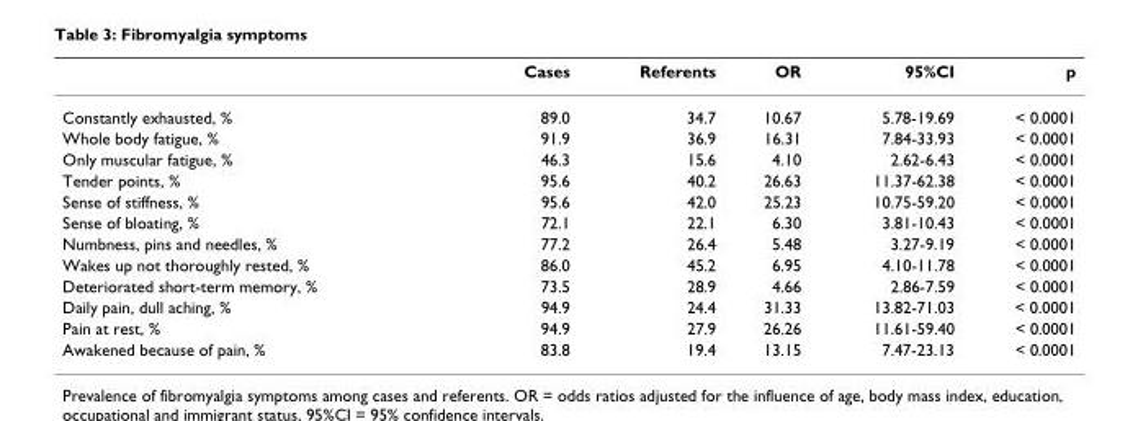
<table><thead><tr><td></td><td>Cases</td><td>Referents</td><td>OR</td><td>95%CI</td><td>p</td></tr></thead><tbody><tr><td>Constantly exhausted, %</td><td>89.0</td><td>34.7</td><td>10.67</td><td>5.78-19.69</td><td>&lt; 0.0001</td></tr><tr><td>Whole body fatigue, %</td><td>91.9</td><td>36.9</td><td>16.31</td><td>7.84-33.93</td><td>&lt; 0.0001</td></tr><tr><td>Only muscular fatigue, %</td><td>46.3</td><td>15.6</td><td>4.10</td><td>2.62-6.43</td><td>&lt; 0.0001</td></tr><tr><td>Tender points, %</td><td>95.6</td><td>40.2</td><td>26.63</td><td>11.37-62.38</td><td>&lt; 0.0001</td></tr><tr><td>Sense of stiffness, %</td><td>95.6</td><td>42.0</td><td>25.23</td><td>10.75-59.20</td><td>&lt; 0.0001</td></tr><tr><td>Sense of bloating, %</td><td>72.1</td><td>22.1</td><td>6.30</td><td>3.81-10.43</td><td>&lt; 0.0001</td></tr><tr><td>Numbness, pins and needles, %</td><td>77.2</td><td>26.4</td><td>5.48</td><td>3.27-9.19</td><td>&lt; 0.0001</td></tr><tr><td>Wakes up not thoroughly rested, %</td><td>86.0</td><td>45.2</td><td>6.95</td><td>4.10-11.78</td><td>&lt; 0.0001</td></tr><tr><td>Deteriorated short-term memory, %</td><td>73.5</td><td>28.9</td><td>4.66</td><td>2.86-7.59</td><td>&lt; 0.0001</td></tr><tr><td>Daily pain, dull aching, %</td><td>94.9</td><td>24.4</td><td>31.33</td><td>13.82-71.03</td><td>&lt; 0.0001</td></tr><tr><td>Pain at rest, %</td><td>94.9</td><td>27.9</td><td>26.26</td><td>11.61-59.40</td><td>&lt; 0.0001</td></tr><tr><td>Awakened because of pain, %</td><td>83.8</td><td>19.4</td><td>13.15</td><td>7.47-23.13</td><td>&lt; 0.0001</td></tr></tbody></table>